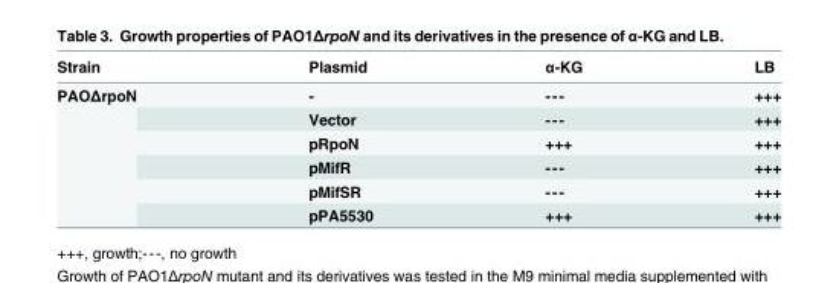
<table><thead><tr><td>Strain</td><td>Plasmid</td><td>α-KG</td><td>LB</td></tr></thead><tbody><tr><td rowspan="6">PAOΔrpoN</td><td>-</td><td>---</td><td>+++</td></tr><tr><td>Vector</td><td>---</td><td>+++</td></tr><tr><td>pRpoN</td><td>+++</td><td>+++</td></tr><tr><td>pMifR</td><td>---</td><td>+++</td></tr><tr><td>pMifSR</td><td>---</td><td>+++</td></tr><tr><td>pPA5530</td><td>+++</td><td>+++</td></tr></tbody></table>